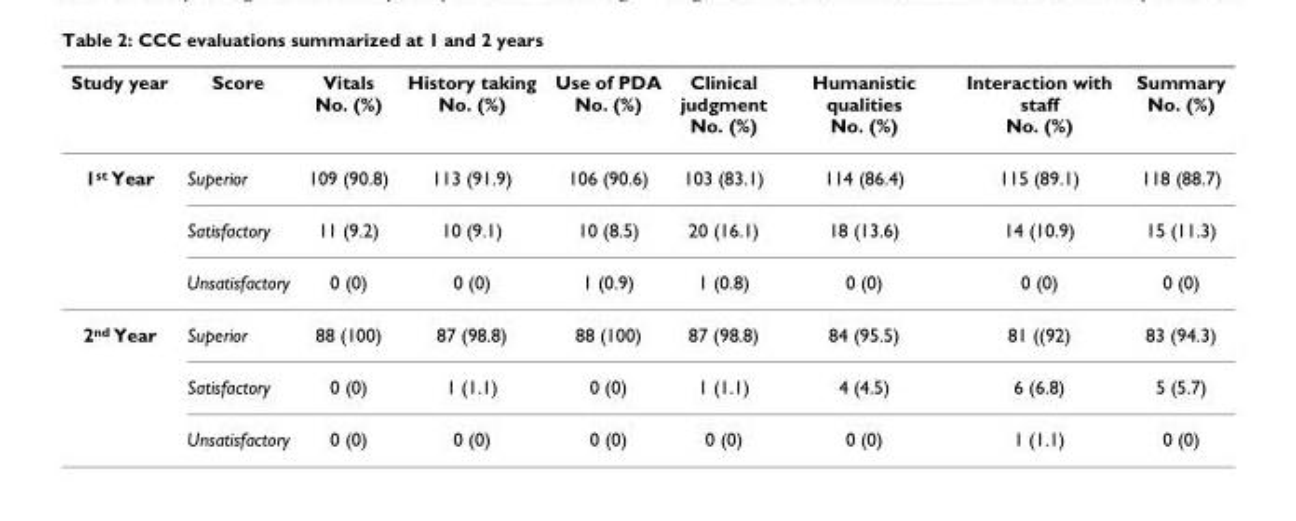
<table><thead><tr><td>Study year</td><td>Score</td><td>Vitals No. (%)</td><td>History taking No. (%)</td><td>Use of PDA No. (%)</td><td>Clinical judgment No. (%)</td><td>Humanistic qualities No. (%)</td><td>Interaction with staff No. (%)</td><td>Summary No. (%)</td></tr></thead><tbody><tr><td rowspan="3">1<sup>st</sup> Year</td><td>Superior</td><td>109 (90.8)</td><td>113 (91.9)</td><td>106 (90.6)</td><td>103 (83.1)</td><td>114 (86.4)</td><td>115 (89.1)</td><td>118 (88.7)</td></tr><tr><td>Satisfactory</td><td>11 (9.2)</td><td>10 (9.1)</td><td>10 (8.5)</td><td>20 (16.1)</td><td>18 (13.6)</td><td>14 (10.9)</td><td>15 (11.3)</td></tr><tr><td>Unsatisfactory</td><td>0 (0)</td><td>0 (0)</td><td>1 (0.9)</td><td>1 (0.8)</td><td>0 (0)</td><td>0 (0)</td><td>0 (0)</td></tr><tr><td rowspan="3">2<sup>nd</sup> Year</td><td>Superior</td><td>88 (100)</td><td>87 (98.8)</td><td>88 (100)</td><td>87 (98.8)</td><td>84 (95.5)</td><td>81 ((92)</td><td>83 (94.3)</td></tr><tr><td>Satisfactory</td><td>0 (0)</td><td>1 (1.1)</td><td>0 (0)</td><td>1 (1.1)</td><td>4 (4.5)</td><td>6 (6.8)</td><td>5 (5.7)</td></tr><tr><td>Unsatisfactory</td><td>0 (0)</td><td>0 (0)</td><td>0 (0)</td><td>0 (0)</td><td>0 (0)</td><td>1 (1.1)</td><td>0 (0)</td></tr></tbody></table>